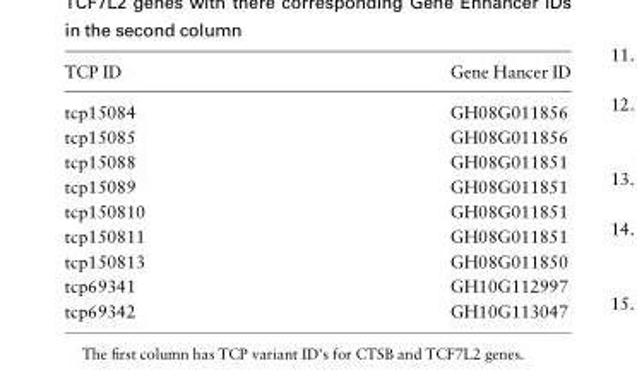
<table><thead><tr><td>TCP ID</td><td>Gene Hancer ID</td></tr></thead><tbody><tr><td>tcp15084</td><td>GH08G011856</td></tr><tr><td>tcp15085</td><td>GH08G011856</td></tr><tr><td>tcp15088</td><td>GH08G011851</td></tr><tr><td>tcp15089</td><td>GH08G011851</td></tr><tr><td>tcp150810</td><td>GH08G011851</td></tr><tr><td>tcp150811</td><td>GH08G011851</td></tr><tr><td>tcp150813</td><td>GH08G011850</td></tr><tr><td>tcp69341</td><td>GH10G112997</td></tr><tr><td>tcp69342</td><td>GH10G113047</td></tr></tbody></table>